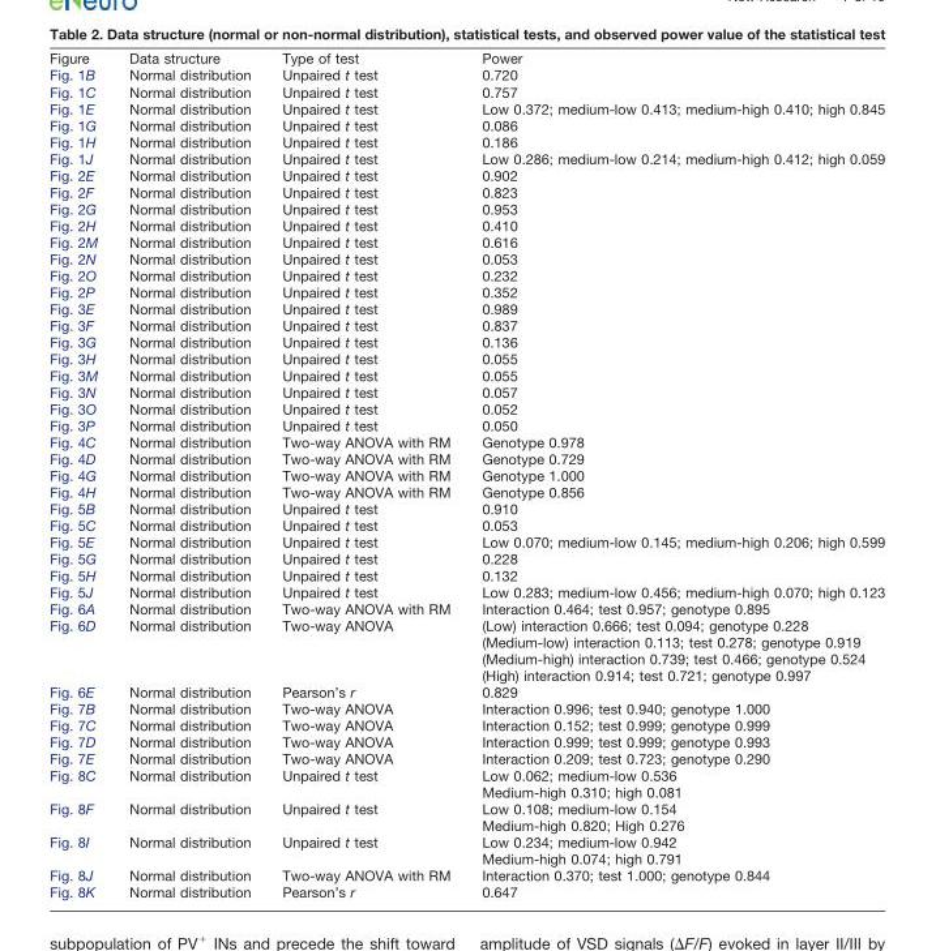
<table><thead><tr><td>Figure</td><td>Data structure</td><td>Type of test</td><td>Power</td></tr></thead><tbody><tr><td>Fig. 1B</td><td>Normal distribution</td><td>Unpaired t test</td><td>0.720</td></tr><tr><td>Fig. 1C</td><td>Normal distribution</td><td>Unpaired t test</td><td>0.757</td></tr><tr><td>Fig. 1E</td><td>Normal distribution</td><td>Unpaired t test</td><td>Low 0.372; medium-low 0.413; medium-high 0.410; high 0.845</td></tr><tr><td>Fig. 1G</td><td>Normal distribution</td><td>Unpaired t test</td><td>0.086</td></tr><tr><td>Fig. 1H</td><td>Normal distribution</td><td>Unpaired t test</td><td>0.186</td></tr><tr><td>Fig. 1J</td><td>Normal distribution</td><td>Unpaired t test</td><td>Low 0.286; medium-low 0.214; medium-high 0.412; high 0.059</td></tr><tr><td>Fig. 2E</td><td>Normal distribution</td><td>Unpaired t test</td><td>0.902</td></tr><tr><td>Fig. 2F</td><td>Normal distribution</td><td>Unpaired t test</td><td>0.823</td></tr><tr><td>Fig. 2G</td><td>Normal distribution</td><td>Unpaired t test</td><td>0.953</td></tr><tr><td>Fig. 2H</td><td>Normal distribution</td><td>Unpaired t test</td><td>0.410</td></tr><tr><td>Fig. 2M</td><td>Normal distribution</td><td>Unpaired t test</td><td>0.616</td></tr><tr><td>Fig. 2N</td><td>Normal distribution</td><td>Unpaired t test</td><td>0.053</td></tr><tr><td>Fig. 2O</td><td>Normal distribution</td><td>Unpaired t test</td><td>0.232</td></tr><tr><td>Fig. 2P</td><td>Normal distribution</td><td>Unpaired t test</td><td>0.352</td></tr><tr><td>Fig. 3E</td><td>Normal distribution</td><td>Unpaired t test</td><td>0.989</td></tr><tr><td>Fig. 3F</td><td>Normal distribution</td><td>Unpaired t test</td><td>0.837</td></tr><tr><td>Fig. 3G</td><td>Normal distribution</td><td>Unpaired t test</td><td>0.136</td></tr><tr><td>Fig. 3H</td><td>Normal distribution</td><td>Unpaired t test</td><td>0.055</td></tr><tr><td>Fig. 3M</td><td>Normal distribution</td><td>Unpaired t test</td><td>0.055</td></tr><tr><td>Fig. 3N</td><td>Normal distribution</td><td>Unpaired t test</td><td>0.057</td></tr><tr><td>Fig. 3O</td><td>Normal distribution</td><td>Unpaired t test</td><td>0.052</td></tr><tr><td>Fig. 3P</td><td>Normal distribution</td><td>Unpaired t test</td><td>0.050</td></tr><tr><td>Fig. 4C</td><td>Normal distribution</td><td>Two-way ANOVA with RM</td><td>Genotype 0.978</td></tr><tr><td>Fig. 4D</td><td>Normal distribution</td><td>Two-way ANOVA with RM</td><td>Genotype 0.729</td></tr><tr><td>Fig. 4G</td><td>Normal distribution</td><td>Two-way ANOVA with RM</td><td>Genotype 1.000</td></tr><tr><td>Fig. 4H</td><td>Normal distribution</td><td>Two-way ANOVA with RM</td><td>Genotype 0.856</td></tr><tr><td>Fig. 5B</td><td>Normal distribution</td><td>Unpaired t test</td><td>0.910</td></tr><tr><td>Fig. 5C</td><td>Normal distribution</td><td>Unpaired t test</td><td>0.053</td></tr><tr><td>Fig. 5E</td><td>Normal distribution</td><td>Unpaired t test</td><td>Low 0.070; medium-low 0.145; medium-high 0.206; high 0.599</td></tr><tr><td>Fig. 5G</td><td>Normal distribution</td><td>Unpaired t test</td><td>0.228</td></tr><tr><td>Fig. 5H</td><td>Normal distribution</td><td>Unpaired t test</td><td>0.132</td></tr><tr><td>Fig. 5J</td><td>Normal distribution</td><td>Unpaired t test</td><td>Low 0.283; medium-low 0.456; medium-high 0.070; high 0.123</td></tr><tr><td>Fig. 6A</td><td>Normal distribution</td><td>Two-way ANOVA with RM</td><td>Interaction 0.464; test 0.957; genotype 0.895</td></tr><tr><td rowspan="4">Fig. 6D</td><td>Normal distribution</td><td>Two-way ANOVA</td><td>(Low) interaction 0.666; test 0.094; genotype 0.228</td></tr><tr><td></td><td></td><td>(Medium-low) interaction 0.113; test 0.278; genotype 0.919</td></tr><tr><td></td><td></td><td>(Medium-high) interaction 0.739; test 0.466; genotype 0.524</td></tr><tr><td></td><td></td><td>(High) interaction 0.914; test 0.721; genotype 0.997</td></tr><tr><td>Fig. 6E</td><td>Normal distribution</td><td>Pearson’s r</td><td>0.829</td></tr><tr><td>Fig. 7B</td><td>Normal distribution</td><td>Two-way ANOVA</td><td>Interaction 0.996; test 0.940; genotype 1.000</td></tr><tr><td>Fig. 7C</td><td>Normal distribution</td><td>Two-way ANOVA</td><td>Interaction 0.152; test 0.999; genotype 0.999</td></tr><tr><td>Fig. 7D</td><td>Normal distribution</td><td>Two-way ANOVA</td><td>Interaction 0.999; test 0.999; genotype 0.993</td></tr><tr><td>Fig. 7E</td><td>Normal distribution</td><td>Two-way ANOVA</td><td>Interaction 0.209; test 0.723; genotype 0.290</td></tr><tr><td rowspan="2">Fig. 8C</td><td>Normal distribution</td><td>Unpaired t test</td><td>Low 0.062; medium-low 0.536</td></tr><tr><td></td><td></td><td>Medium-high 0.310; high 0.081</td></tr><tr><td rowspan="2">Fig. 8F</td><td>Normal distribution</td><td>Unpaired t test</td><td>Low 0.108; medium-low 0.154</td></tr><tr><td></td><td></td><td>Medium-high 0.820; High 0.276</td></tr><tr><td rowspan="2">Fig. 8I</td><td>Normal distribution</td><td>Unpaired t test</td><td>Low 0.234; medium-low 0.942</td></tr><tr><td></td><td></td><td>Medium-high 0.074; high 0.791</td></tr><tr><td>Fig. 8J</td><td>Normal distribution</td><td>Two-way ANOVA with RM</td><td>Interaction 0.370; test 1.000; genotype 0.844</td></tr><tr><td>Fig. 8K</td><td>Normal distribution</td><td>Pearson’s r</td><td>0.647</td></tr></tbody></table>